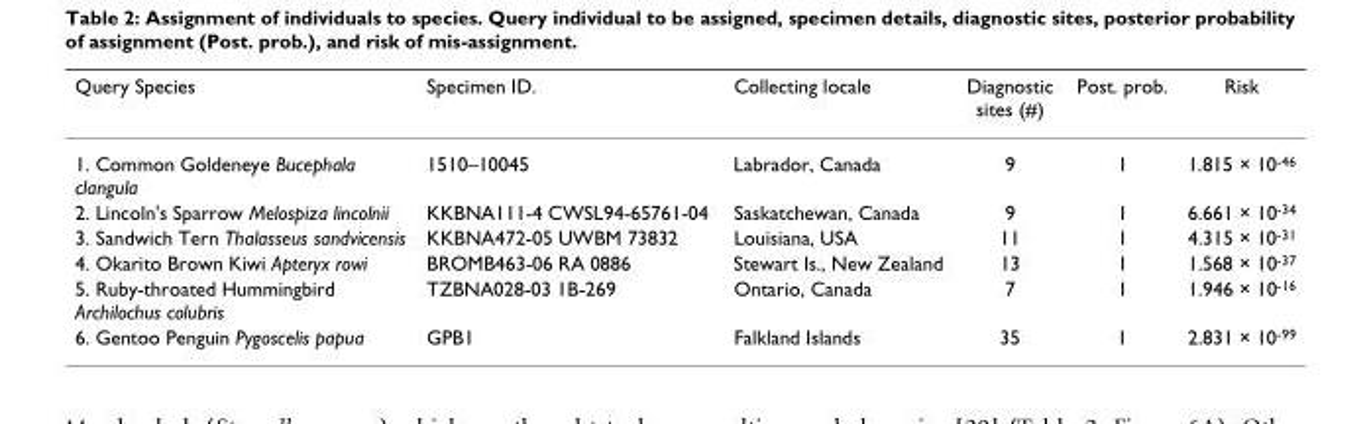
<table><thead><tr><td>Query Species</td><td>Specimen ID.</td><td>Collecting locale</td><td>Diagnostic sites (#)</td><td>Post. prob.</td><td>Risk</td></tr></thead><tbody><tr><td>1. Common Goldeneye Bucephala clangula</td><td>1510–10045</td><td>Labrador, Canada</td><td>9</td><td>1</td><td>1.815 × 10<sup>-46</sup></td></tr><tr><td>2. Lincoln&#x27;s Sparrow Melospiza lincolnii</td><td>KKBNA111-4 CWSL94-65761-04</td><td>Saskatchewan, Canada</td><td>9</td><td>1</td><td>6.661 × 10<sup>-34</sup></td></tr><tr><td>3. Sandwich Tern Thalasseus sandvicensis</td><td>KKBNA472-05 UWBM 73832</td><td>Louisiana, USA</td><td>11</td><td>1</td><td>4.315 × 10<sup>-31</sup></td></tr><tr><td>4. Okarito Brown Kiwi Apteryx rowi</td><td>BROMB463-06 RA 0886</td><td>Stewart Is., New Zealand</td><td>13</td><td>1</td><td>1.568 × 10<sup>-37</sup></td></tr><tr><td>5. Ruby-throated Hummingbird Archilochus colubris</td><td>TZBNA028-03 1B-269</td><td>Ontario, Canada</td><td>7</td><td>1</td><td>1.946 × 10<sup>-16</sup></td></tr><tr><td>6. Gentoo Penguin Pygoscelis papua</td><td>GPB1</td><td>Falkland Islands</td><td>35</td><td>1</td><td>2.831 × 10<sup>-99</sup></td></tr></tbody></table>